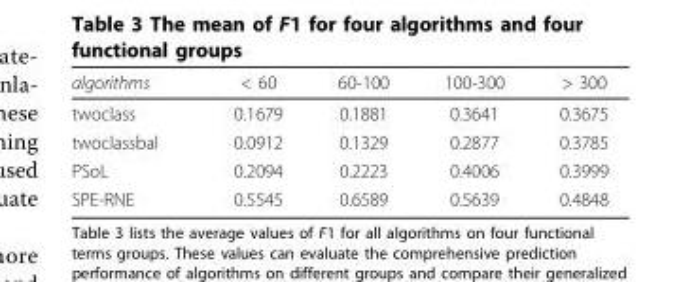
<table><thead><tr><td>algorithms</td><td>&lt; 60</td><td>60-100</td><td>100-300</td><td>&gt; 300</td></tr></thead><tbody><tr><td>twoclass</td><td>0.1679</td><td>0.1881</td><td>0.3641</td><td>0.3675</td></tr><tr><td>twoclassbal</td><td>0.0912</td><td>0.1329</td><td>0.2877</td><td>0.3785</td></tr><tr><td>PSoL</td><td>0.2094</td><td>0.2223</td><td>0.4006</td><td>0.3999</td></tr><tr><td>SPE-RNE</td><td>0.5545</td><td>0.6589</td><td>0.5639</td><td>0.4848</td></tr></tbody></table>